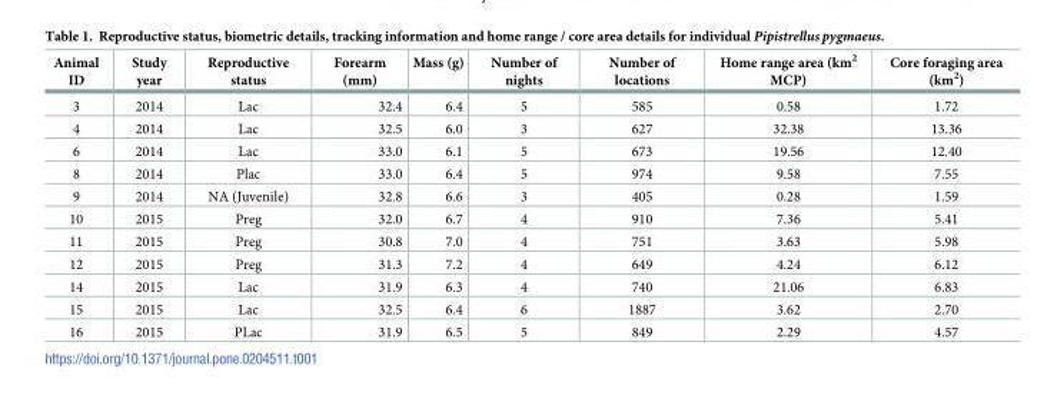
<table><thead><tr><td>Animal ID</td><td>Study year</td><td>Reproductive status</td><td>Forearm (mm)</td><td>Mass (g)</td><td>Number of nights</td><td>Number of locations</td><td>Home range area (km<sup>2</sup> MCP)</td><td>Core foraging area (km<sup>2</sup>)</td></tr></thead><tbody><tr><td>3</td><td>2014</td><td>Lac</td><td>32.4</td><td>6.4</td><td>5</td><td>585</td><td>0.58</td><td>1.72</td></tr><tr><td>4</td><td>2014</td><td>Lac</td><td>32.5</td><td>6.0</td><td>3</td><td>627</td><td>32.38</td><td>13.36</td></tr><tr><td>6</td><td>2014</td><td>Lac</td><td>33.0</td><td>6.1</td><td>5</td><td>673</td><td>19.56</td><td>12.40</td></tr><tr><td>8</td><td>2014</td><td>Plac</td><td>33.0</td><td>6.4</td><td>5</td><td>974</td><td>9.58</td><td>7.55</td></tr><tr><td>9</td><td>2014</td><td>NA (Juvenile)</td><td>32.8</td><td>6.6</td><td>3</td><td>405</td><td>0.28</td><td>1.59</td></tr><tr><td>10</td><td>2015</td><td>Preg</td><td>32.0</td><td>6.7</td><td>4</td><td>910</td><td>7.36</td><td>5.41</td></tr><tr><td>11</td><td>2015</td><td>Preg</td><td>30.8</td><td>7.0</td><td>4</td><td>751</td><td>3.63</td><td>5.98</td></tr><tr><td>12</td><td>2015</td><td>Preg</td><td>31.3</td><td>7.2</td><td>4</td><td>649</td><td>4.24</td><td>6.12</td></tr><tr><td>14</td><td>2015</td><td>Lac</td><td>31.9</td><td>6.3</td><td>4</td><td>740</td><td>21.06</td><td>6.83</td></tr><tr><td>15</td><td>2015</td><td>Lac</td><td>32.5</td><td>6.4</td><td>6</td><td>1887</td><td>3.62</td><td>2.70</td></tr><tr><td>16</td><td>2015</td><td>PLac</td><td>31.9</td><td>6.5</td><td>5</td><td>849</td><td>2.29</td><td>4.57</td></tr></tbody></table>